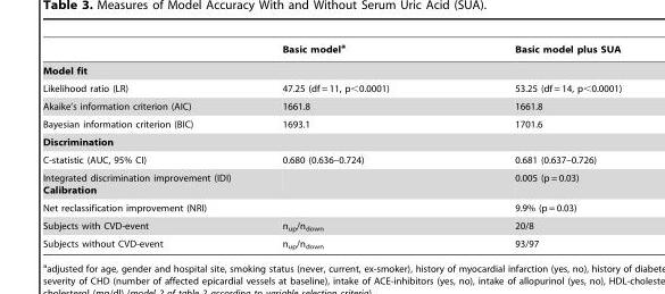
<table><thead><tr><td></td><td>Basic model<sup>a</sup></td><td>Basic model plus SUA</td></tr></thead><tbody><tr><td colspan="3">Model fit</td></tr><tr><td>Likelihood ratio (LR)</td><td>47.25 (df = 11, p&lt;0.0001)</td><td>53.25 (df = 14, p&lt;0.0001)</td></tr><tr><td>Akaike’s information criterion (AIC)</td><td>1661.8</td><td>1661.8</td></tr><tr><td>Bayesian information criterion (BIC)</td><td>1693.1</td><td>1701.6</td></tr><tr><td colspan="3">Discrimination</td></tr><tr><td>C-statistic (AUC, 95% CI)</td><td>0.680 (0.636–0.724)</td><td>0.681 (0.637–0.726)</td></tr><tr><td>Integrated discrimination improvement (IDI) Calibration</td><td></td><td>0.005 (p = 0.03)</td></tr><tr><td>Net reclassification improvement (NRI)</td><td></td><td>9.9% (p = 0.03)</td></tr><tr><td>Subjects with CVD-event</td><td>n<sub>up</sub>/n<sub>down</sub></td><td>20/8</td></tr><tr><td>Subjects without CVD-event</td><td>n<sub>up</sub>/n<sub>down</sub></td><td>93/97</td></tr></tbody></table>